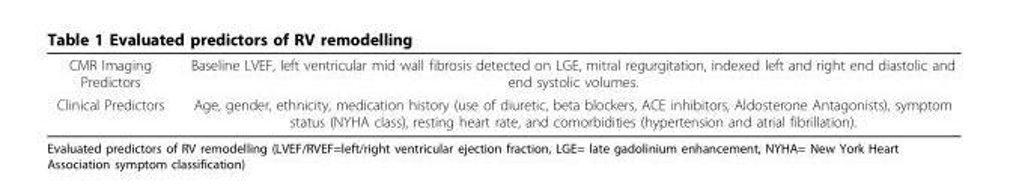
<table><tbody><tr><td>CMR Imaging Predictors</td><td>Baseline LVEF, left ventricular mid wall fibrosis detected on LGE, mitral regurgitation, indexed left and right end diastolic and end systolic volumes.</td></tr><tr><td>Clinical Predictors</td><td>Age, gender, ethnicity, medication history (use of diuretic, beta blockers, ACE inhibitors, Aldosterone Antagonists), symptom status (NYHA class), resting heart rate, and comorbidities (hypertension and atrial fibrillation).</td></tr></tbody></table>